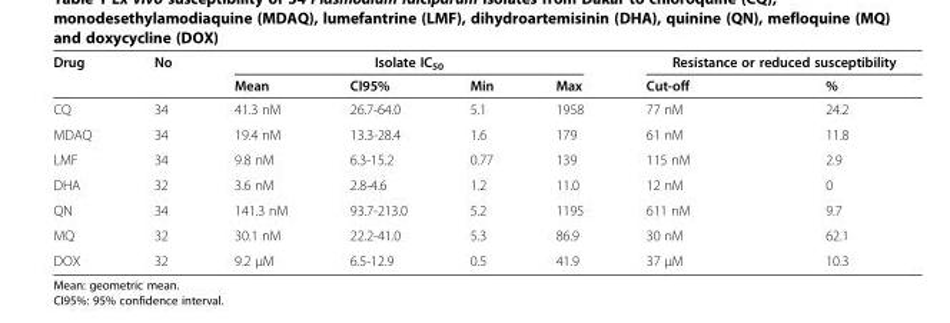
<table><thead><tr><td rowspan="2">Drug</td><td rowspan="2">No</td><td colspan="4">Isolate IC<sub>50</sub></td><td colspan="2">Resistance or reduced susceptibility</td></tr><tr><td>Mean</td><td>CI95%</td><td>Min</td><td>Max</td><td>Cut-off</td><td>%</td></tr></thead><tbody><tr><td>CQ</td><td>34</td><td>41.3 nM</td><td>26.7-64.0</td><td>5.1</td><td>1958</td><td>77 nM</td><td>24.2</td></tr><tr><td>MDAQ</td><td>34</td><td>19.4 nM</td><td>13.3-28.4</td><td>1.6</td><td>179</td><td>61 nM</td><td>11.8</td></tr><tr><td>LMF</td><td>34</td><td>9.8 nM</td><td>6.3-15.2</td><td>0.77</td><td>139</td><td>115 nM</td><td>2.9</td></tr><tr><td>DHA</td><td>32</td><td>3.6 nM</td><td>2.8-4.6</td><td>1.2</td><td>11.0</td><td>12 nM</td><td>0</td></tr><tr><td>QN</td><td>34</td><td>141.3 nM</td><td>93.7-213.0</td><td>5.2</td><td>1195</td><td>611 nM</td><td>9.7</td></tr><tr><td>MQ</td><td>32</td><td>30.1 nM</td><td>22.2-41.0</td><td>5.3</td><td>86.9</td><td>30 nM</td><td>62.1</td></tr><tr><td>DOX</td><td>32</td><td>9.2 μM</td><td>6.5-12.9</td><td>0.5</td><td>41.9</td><td>37 μM</td><td>10.3</td></tr></tbody></table>